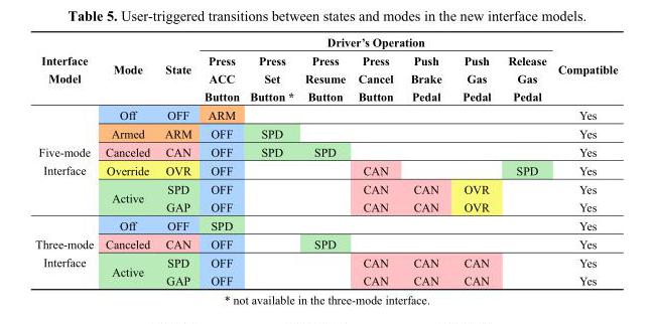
<table><thead><tr><td rowspan="2">Interface Model</td><td rowspan="2">Mode</td><td rowspan="2">State</td><td colspan="7">Driver’s Operation</td><td rowspan="2">Compatible</td></tr><tr><td>Press ACC Button</td><td>Press Set Button *</td><td>Press Resume Button</td><td>Press Cancel Button</td><td>Push Brake Pedal</td><td>Push Gas Pedal</td><td>Release Gas Pedal</td></tr></thead><tbody><tr><td rowspan="6">Five-mode Interface</td><td>Off</td><td>OFF</td><td>ARM</td><td></td><td></td><td></td><td></td><td></td><td></td><td>Yes</td></tr><tr><td>Armed</td><td>ARM</td><td>OFF</td><td>SPD</td><td></td><td></td><td></td><td></td><td></td><td>Yes</td></tr><tr><td>Canceled</td><td>CAN</td><td>OFF</td><td>SPD</td><td>SPD</td><td></td><td></td><td></td><td></td><td>Yes</td></tr><tr><td>Override</td><td>OVR</td><td>OFF</td><td></td><td></td><td>CAN</td><td></td><td></td><td>SPD</td><td>Yes</td></tr><tr><td rowspan="2">Active</td><td>SPD</td><td>OFF</td><td></td><td></td><td>CAN</td><td>CAN</td><td>OVR</td><td></td><td>Yes</td></tr><tr><td>GAP</td><td>OFF</td><td></td><td></td><td>CAN</td><td>CAN</td><td>OVR</td><td></td><td>Yes</td></tr><tr><td rowspan="4">Three-mode Interface</td><td>Off</td><td>OFF</td><td>SPD</td><td></td><td></td><td></td><td></td><td></td><td></td><td>Yes</td></tr><tr><td>Canceled</td><td>CAN</td><td>OFF</td><td></td><td>SPD</td><td></td><td></td><td></td><td></td><td>Yes</td></tr><tr><td rowspan="2">Active</td><td>SPD</td><td>OFF</td><td></td><td></td><td>CAN</td><td>CAN</td><td>CAN</td><td></td><td>Yes</td></tr><tr><td>GAP</td><td>OFF</td><td></td><td></td><td>CAN</td><td>CAN</td><td>CAN</td><td></td><td>Yes</td></tr></tbody></table>